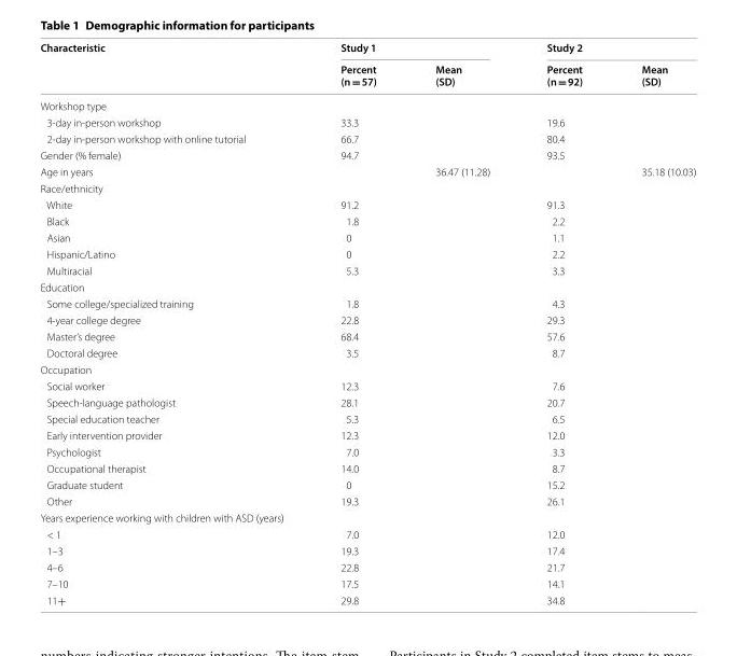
<table><thead><tr><td rowspan="2">Characteristic</td><td colspan="2">Study 1</td><td colspan="2">Study 2</td></tr><tr><td>Percent (n = 57)</td><td>Mean (SD)</td><td>Percent (n = 92)</td><td>Mean (SD)</td></tr></thead><tbody><tr><td colspan="5">Workshop type</td></tr><tr><td>3-day in-person workshop</td><td>33.3</td><td></td><td>19.6</td><td></td></tr><tr><td>2-day in-person workshop with online tutorial</td><td>66.7</td><td></td><td>80.4</td><td></td></tr><tr><td>Gender (% female)</td><td>94.7</td><td></td><td>93.5</td><td></td></tr><tr><td>Age in years</td><td></td><td>36.47 (11.28)</td><td></td><td>35.18 (10.03)</td></tr><tr><td colspan="5">Race/ethnicity</td></tr><tr><td>White</td><td>91.2</td><td></td><td>91.3</td><td></td></tr><tr><td>Black</td><td>1.8</td><td></td><td>2.2</td><td></td></tr><tr><td>Asian</td><td>0</td><td></td><td>1.1</td><td></td></tr><tr><td>Hispanic/Latino</td><td>0</td><td></td><td>2.2</td><td></td></tr><tr><td>Multiracial</td><td>5.3</td><td></td><td>3.3</td><td></td></tr><tr><td colspan="5">Education</td></tr><tr><td>Some college/specialized training</td><td>1.8</td><td></td><td>4.3</td><td></td></tr><tr><td>4-year college degree</td><td>22.8</td><td></td><td>29.3</td><td></td></tr><tr><td>Master’s degree</td><td>68.4</td><td></td><td>57.6</td><td></td></tr><tr><td>Doctoral degree</td><td>3.5</td><td></td><td>8.7</td><td></td></tr><tr><td colspan="5">Occupation</td></tr><tr><td>Social worker</td><td>12.3</td><td></td><td>7.6</td><td></td></tr><tr><td>Speech-language pathologist</td><td>28.1</td><td></td><td>20.7</td><td></td></tr><tr><td>Special education teacher</td><td>5.3</td><td></td><td>6.5</td><td></td></tr><tr><td>Early intervention provider</td><td>12.3</td><td></td><td>12.0</td><td></td></tr><tr><td>Psychologist</td><td>7.0</td><td></td><td>3.3</td><td></td></tr><tr><td>Occupational therapist</td><td>14.0</td><td></td><td>8.7</td><td></td></tr><tr><td>Graduate student</td><td>0</td><td></td><td>15.2</td><td></td></tr><tr><td>Other</td><td>19.3</td><td></td><td>26.1</td><td></td></tr><tr><td colspan="5">Years experience working with children with ASD (years)</td></tr><tr><td>&lt; 1</td><td>7.0</td><td></td><td>12.0</td><td></td></tr><tr><td>1–3</td><td>19.3</td><td></td><td>17.4</td><td></td></tr><tr><td>4–6</td><td>22.8</td><td></td><td>21.7</td><td></td></tr><tr><td>7–10</td><td>17.5</td><td></td><td>14.1</td><td></td></tr><tr><td>11+</td><td>29.8</td><td></td><td>34.8</td><td></td></tr></tbody></table>